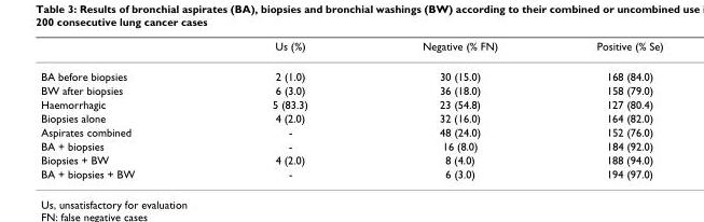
<table><thead><tr><td></td><td>Us (%)</td><td>Negative (% FN)</td><td>Positive (% Se)</td></tr></thead><tbody><tr><td>BA before biopsies</td><td>2 (1.0)</td><td>30 (15.0)</td><td>168 (84.0)</td></tr><tr><td>BW after biopsies</td><td>6 (3.0)</td><td>36 (18.0)</td><td>158 (79.0)</td></tr><tr><td>Haemorrhagic</td><td>5 (83.3)</td><td>23 (54.8)</td><td>127 (80.4)</td></tr><tr><td>Biopsies alone</td><td>4 (2.0)</td><td>32 (16.0)</td><td>164 (82.0)</td></tr><tr><td>Aspirates combined</td><td>-</td><td>48 (24.0)</td><td>152 (76.0)</td></tr><tr><td>BA + biopsies</td><td>-</td><td>16 (8.0)</td><td>184 (92.0)</td></tr><tr><td>Biopsies + BW</td><td>4 (2.0)</td><td>8 (4.0)</td><td>188 (94.0)</td></tr><tr><td>BA + biopsies + BW</td><td>-</td><td>6 (3.0)</td><td>194 (97.0)</td></tr></tbody></table>